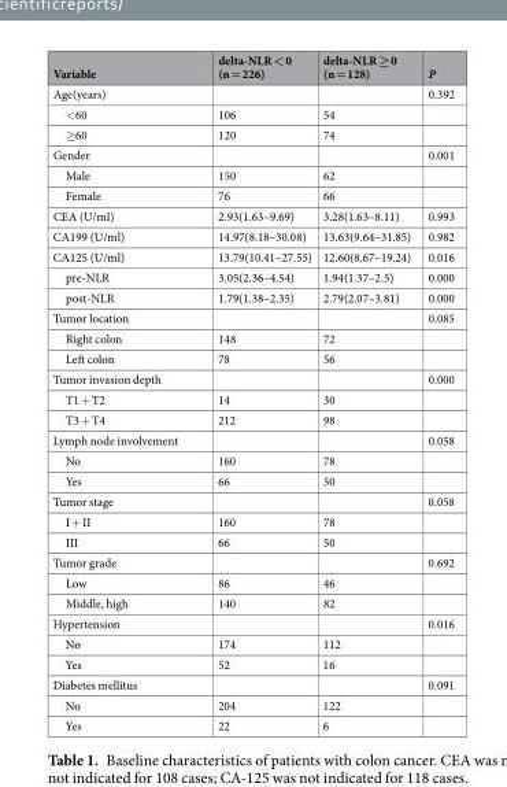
<table><thead><tr><td>Variable</td><td>delta-NLR &lt; 0 (n = 226)</td><td>delta-NLR ≥ 0 (n = 128)</td><td>P</td></tr></thead><tbody><tr><td>Age(years)</td><td></td><td></td><td>0.392</td></tr><tr><td>&lt;60</td><td>106</td><td>54</td><td></td></tr><tr><td>≥60</td><td>120</td><td>74</td><td></td></tr><tr><td>Gender</td><td></td><td></td><td>0.001</td></tr><tr><td>Male</td><td>150</td><td>62</td><td></td></tr><tr><td>Female</td><td>76</td><td>66</td><td></td></tr><tr><td>CEA (U/ml)</td><td>2.93(1.63–9.69)</td><td>3.28(1.63–8.11)</td><td>0.993</td></tr><tr><td>CA199 (U/ml)</td><td>14.97(8.18–30.08)</td><td>13.63(9.64–31.85)</td><td>0.982</td></tr><tr><td>CA125 (U/ml)</td><td>13.79(10.41–27.55)</td><td>12.60(8.67–19.24)</td><td>0.016</td></tr><tr><td>pre-NLR</td><td>3.05(2.36–4.54)</td><td>1.94(1.37–2.5)</td><td>0.000</td></tr><tr><td>post-NLR</td><td>1.79(1.38–2.35)</td><td>2.79(2.07–3.81)</td><td>0.000</td></tr><tr><td>Tumor location</td><td></td><td></td><td>0.085</td></tr><tr><td>Right colon</td><td>148</td><td>72</td><td></td></tr><tr><td>Left colon</td><td>78</td><td>56</td><td></td></tr><tr><td>Tumor invasion depth</td><td></td><td></td><td>0.000</td></tr><tr><td>T1 + T2</td><td>14</td><td>30</td><td></td></tr><tr><td>T3 + T4</td><td>212</td><td>98</td><td></td></tr><tr><td>Lymph node involvement</td><td></td><td></td><td>0.058</td></tr><tr><td>No</td><td>160</td><td>78</td><td></td></tr><tr><td>Yes</td><td>66</td><td>50</td><td></td></tr><tr><td>Tumor stage</td><td></td><td></td><td>0.058</td></tr><tr><td>I + II</td><td>160</td><td>78</td><td></td></tr><tr><td>III</td><td>66</td><td>50</td><td></td></tr><tr><td>Tumor grade</td><td></td><td></td><td>0.692</td></tr><tr><td>Low</td><td>86</td><td>46</td><td></td></tr><tr><td>Middle, high</td><td>140</td><td>82</td><td></td></tr><tr><td>Hypertension</td><td></td><td></td><td>0.016</td></tr><tr><td>No</td><td>174</td><td>112</td><td></td></tr><tr><td>Yes</td><td>52</td><td>16</td><td></td></tr><tr><td>Diabetes mellitus</td><td></td><td></td><td>0.091</td></tr><tr><td>No</td><td>204</td><td>122</td><td></td></tr><tr><td>Yes</td><td>22</td><td>6</td><td></td></tr></tbody></table>